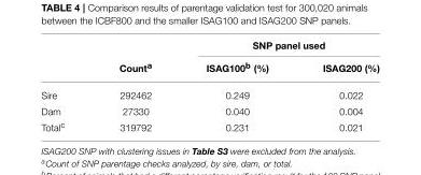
<table><thead><tr><td rowspan="2"></td><td rowspan="2">Count<sup>a</sup></td><td colspan="2">SNP panel used</td></tr><tr><td>ISAG100<sup>b</sup> (%)</td><td>ISAG200 (%)</td></tr></thead><tbody><tr><td>Sire</td><td>292462</td><td>0.249</td><td>0.022</td></tr><tr><td>Dam</td><td>27330</td><td>0.040</td><td>0.004</td></tr><tr><td>Total<sup>c</sup></td><td>319792</td><td>0.231</td><td>0.021</td></tr></tbody></table>